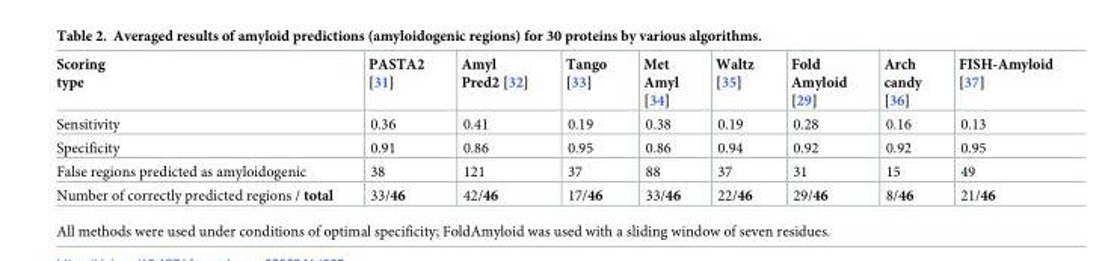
<table><thead><tr><td>Scoring type</td><td>PASTA2 [31]</td><td>Amyl Pred2 [32]</td><td>Tango [33]</td><td>Met Amyl [34]</td><td>Waltz [35]</td><td>Fold Amyloid [29]</td><td>Arch candy [36]</td><td>FISH-Amyloid [37]</td></tr></thead><tbody><tr><td>Sensitivity</td><td>0.36</td><td>0.41</td><td>0.19</td><td>0.38</td><td>0.19</td><td>0.28</td><td>0.16</td><td>0.13</td></tr><tr><td>Specificity</td><td>0.91</td><td>0.86</td><td>0.95</td><td>0.86</td><td>0.94</td><td>0.92</td><td>0.92</td><td>0.95</td></tr><tr><td>False regions predicted as amyloidogenic</td><td>38</td><td>121</td><td>37</td><td>88</td><td>37</td><td>31</td><td>15</td><td>49</td></tr><tr><td>Number of correctly predicted regions / total</td><td>33/46</td><td>42/46</td><td>17/46</td><td>33/46</td><td>22/46</td><td>29/46</td><td>8/46</td><td>21/46</td></tr></tbody></table>